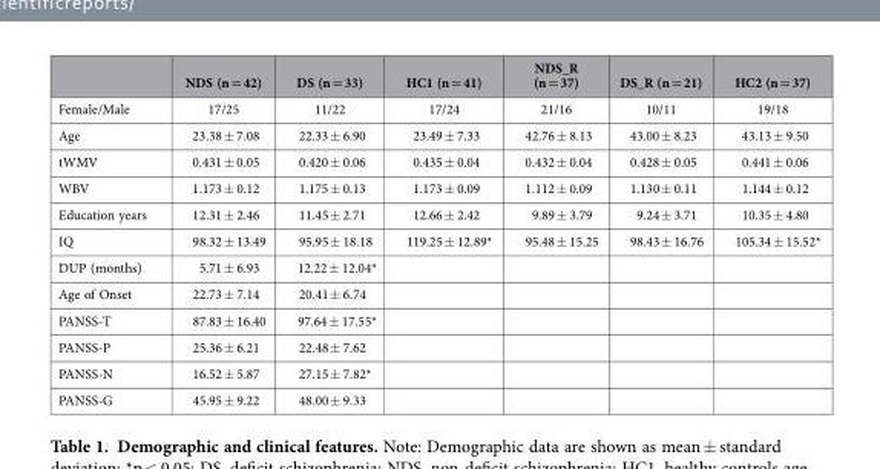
<table><thead><tr><td></td><td>NDS (n = 42)</td><td>DS (n = 33)</td><td>HC1 (n = 41)</td><td>NDS_R (n = 37)</td><td>DS_R (n = 21)</td><td>HC2 (n = 37)</td></tr></thead><tbody><tr><td>Female/Male</td><td>17/25</td><td>11/22</td><td>17/24</td><td>21/16</td><td>10/11</td><td>19/18</td></tr><tr><td>Age</td><td>23.38 ± 7.08</td><td>22.33 ± 6.90</td><td>23.49 ± 7.33</td><td>42.76 ± 8.13</td><td>43.00 ± 8.23</td><td>43.13 ± 9.50</td></tr><tr><td>tWMV</td><td>0.431 ± 0.05</td><td>0.420 ± 0.06</td><td>0.435 ± 0.04</td><td>0.432 ± 0.04</td><td>0.428 ± 0.05</td><td>0.441 ± 0.06</td></tr><tr><td>WBV</td><td>1.173 ± 0.12</td><td>1.175 ± 0.13</td><td>1.173 ± 0.09</td><td>1.112 ± 0.09</td><td>1.130 ± 0.11</td><td>1.144 ± 0.12</td></tr><tr><td>Education years</td><td>12.31 ± 2.46</td><td>11.45 ± 2.71</td><td>12.66 ± 2.42</td><td>9.89 ± 3.79</td><td>9.24 ± 3.71</td><td>10.35 ± 4.80</td></tr><tr><td>IQ</td><td>98.32 ± 13.49</td><td>95.95 ± 18.18</td><td>119.25 ± 12.89*</td><td>95.48 ± 15.25</td><td>98.43 ± 16.76</td><td>105.34 ± 15.52*</td></tr><tr><td>DUP (months)</td><td>5.71 ± 6.93</td><td>12.22 ± 12.04*</td><td></td><td></td><td></td><td></td></tr><tr><td>Age of Onset</td><td>22.73 ± 7.14</td><td>20.41 ± 6.74</td><td></td><td></td><td></td><td></td></tr><tr><td>PANSS-T</td><td>87.83 ± 16.40</td><td>97.64 ± 17.55*</td><td></td><td></td><td></td><td></td></tr><tr><td>PANSS-P</td><td>25.36 ± 6.21</td><td>22.48 ± 7.62</td><td></td><td></td><td></td><td></td></tr><tr><td>PANSS-N</td><td>16.52 ± 5.87</td><td>27.15 ± 7.82*</td><td></td><td></td><td></td><td></td></tr><tr><td>PANSS-G</td><td>45.95 ± 9.22</td><td>48.00 ± 9.33</td><td></td><td></td><td></td><td></td></tr></tbody></table>